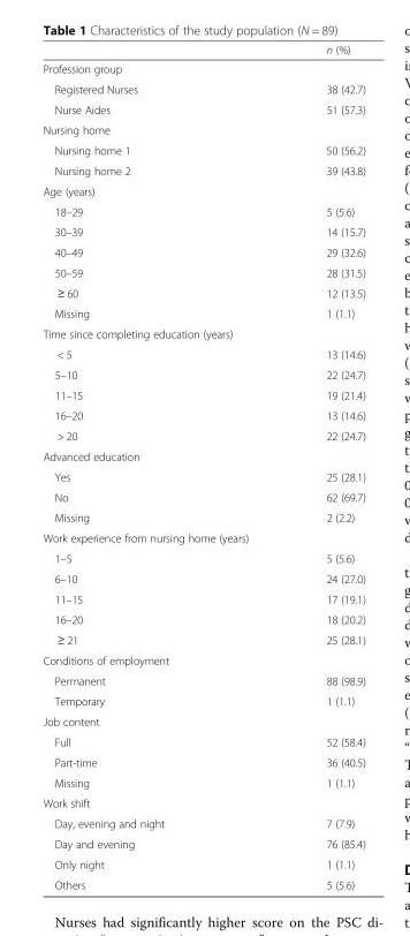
<table><thead><tr><td></td><td>n (%)</td></tr></thead><tbody><tr><td colspan="2">Profession group</td></tr><tr><td>Registered Nurses</td><td>38 (42.7)</td></tr><tr><td>Nurse Aides</td><td>51 (57.3)</td></tr><tr><td colspan="2">Nursing home</td></tr><tr><td>Nursing home 1</td><td>50 (56.2)</td></tr><tr><td>Nursing home 2</td><td>39 (43.8)</td></tr><tr><td colspan="2">Age (years)</td></tr><tr><td>18–29</td><td>5 (5.6)</td></tr><tr><td>30–39</td><td>14 (15.7)</td></tr><tr><td>40–49</td><td>29 (32.6)</td></tr><tr><td>50–59</td><td>28 (31.5)</td></tr><tr><td>≥ 60</td><td>12 (13.5)</td></tr><tr><td>Missing</td><td>1 (1.1)</td></tr><tr><td colspan="2">Time since completing education (years)</td></tr><tr><td>&lt; 5</td><td>13 (14.6)</td></tr><tr><td>5–10</td><td>22 (24.7)</td></tr><tr><td>11–15</td><td>19 (21.4)</td></tr><tr><td>16–20</td><td>13 (14.6)</td></tr><tr><td>&gt; 20</td><td>22 (24.7)</td></tr><tr><td colspan="2">Advanced education</td></tr><tr><td>Yes</td><td>25 (28.1)</td></tr><tr><td>No</td><td>62 (69.7)</td></tr><tr><td>Missing</td><td>2 (2.2)</td></tr><tr><td colspan="2">Work experience from nursing home (years)</td></tr><tr><td>1–5</td><td>5 (5.6)</td></tr><tr><td>6–10</td><td>24 (27.0)</td></tr><tr><td>11–15</td><td>17 (19.1)</td></tr><tr><td>16–20</td><td>18 (20.2)</td></tr><tr><td>≥ 21</td><td>25 (28.1)</td></tr><tr><td colspan="2">Conditions of employment</td></tr><tr><td>Permanent</td><td>88 (98.9)</td></tr><tr><td>Temporary</td><td>1 (1.1)</td></tr><tr><td colspan="2">Job content</td></tr><tr><td>Full</td><td>52 (58.4)</td></tr><tr><td>Part-time</td><td>36 (40.5)</td></tr><tr><td>Missing</td><td>1 (1.1)</td></tr><tr><td colspan="2">Work shift</td></tr><tr><td>Day, evening and night</td><td>7 (7.9)</td></tr><tr><td>Day and evening</td><td>76 (85.4)</td></tr><tr><td>Only night</td><td>1 (1.1)</td></tr><tr><td>Others</td><td>5 (5.6)</td></tr></tbody></table>